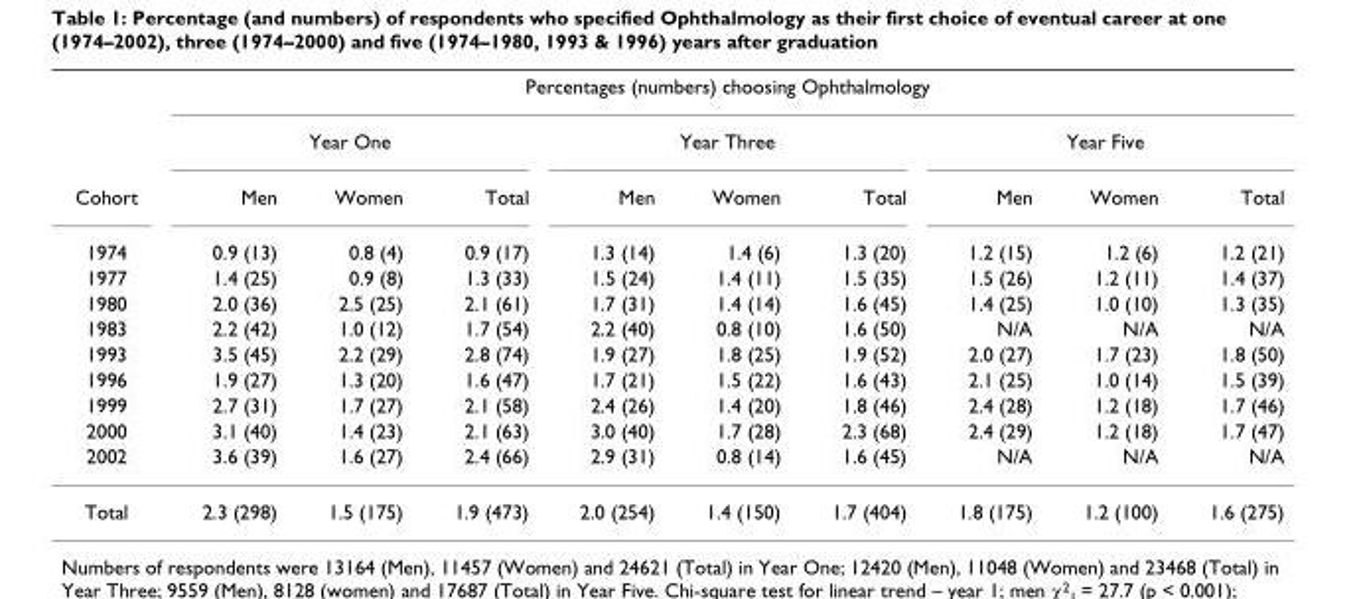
<table><thead><tr><td rowspan="12">Cohort 1974 1977 1980 1983 1993 1996 1999 2000 2002</td><td colspan="9">Percentages (numbers) choosing Ophthalmology</td></tr><tr><td colspan="3">Year One</td><td colspan="3">Year Three</td><td colspan="3">Year Five</td></tr><tr><td rowspan="10">Men 0.9 (13) 1.4 (25) 2.0 (36) 2.2 (42) 3.5 (45) 1.9 (27) 2.7 (31) 3.1 (40) 3.6 (39)</td><td rowspan="10">Women 0.8 (4) 0.9 (8) 2.5 (25) 1.0 (12) 2.2 (29) 1.3 (20) 1.7 (27) 1.4 (23) 1.6 (27)</td><td rowspan="10">Total 0.9 (17) 1.3 (33) 2.1 (61) 1.7 (54) 2.8 (74) 1.6 (47) 2.1 (58) 2.1 (63) 2.4 (66)</td><td rowspan="10">Men 1.3 (14) 1.5 (24) 1.7 (31) 2.2 (40) 1.9 (27) 1.7 (21) 2.4 (26) 3.0 (40) 2.9 (31)</td><td rowspan="10">Women 1.4 (6) 1.4 (11) 1.4 (14) 0.8 (10) 1.8 (25) 1.5 (22) 1.4 (20) 1.7 (28) 0.8 (14)</td><td rowspan="10">Total 1.3 (20) 1.5 (35) 1.6 (45) 1.6 (50) 1.9 (52) 1.6 (43) 1.8 (46) 2.3 (68) 1.6 (45)</td><td rowspan="10">Men 1.2 (15) 1.5 (26) 1.4 (25) N/A 2.0 (27) 2.1 (25) 2.4 (28) 2.4 (29) N/A</td><td rowspan="10">Women 1.2 (6) 1.2 (11) 1.0 (10) N/A 1.7 (23) 1.0 (14) 1.2 (18) 1.2 (18) N/A</td><td rowspan="10">Total 1.2 (21) 1.4 (37) 1.3 (35) N/A 1.8 (50) 1.5 (39) 1.7 (46) 1.7 (47) N/A</td></tr><tr></tr><tr></tr><tr></tr><tr></tr><tr></tr><tr></tr><tr></tr><tr></tr><tr></tr></thead><tbody><tr><td>Total</td><td>2.3 (298)</td><td>1.5 (175)</td><td>1.9 (473)</td><td>2.0 (254)</td><td>1.4 (150)</td><td>1.7 (404)</td><td>1.8 (175)</td><td>1.2 (100)</td><td>1.6 (275)</td></tr></tbody></table>